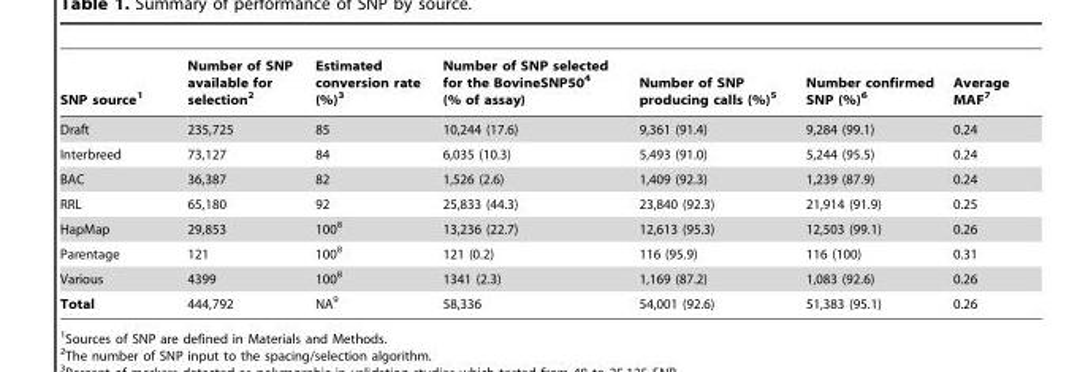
<table><thead><tr><td>SNP source<sup>1</sup></td><td>Number of SNP available for selection<sup>2</sup></td><td>Estimated conversion rate (%)<sup>3</sup></td><td>Number of SNP selected for the BovineSNP50<sup>4</sup> (% of assay)</td><td>Number of SNP producing calls (%)<sup>5</sup></td><td>Number confirmed SNP (%)<sup>6</sup></td><td>Average MAF<sup>7</sup></td></tr></thead><tbody><tr><td>Draft</td><td>235,725</td><td>85</td><td>10,244 (17.6)</td><td>9,361 (91.4)</td><td>9,284 (99.1)</td><td>0.24</td></tr><tr><td>Interbreed</td><td>73,127</td><td>84</td><td>6,035 (10.3)</td><td>5,493 (91.0)</td><td>5,244 (95.5)</td><td>0.24</td></tr><tr><td>BAC</td><td>36,387</td><td>82</td><td>1,526 (2.6)</td><td>1,409 (92.3)</td><td>1,239 (87.9)</td><td>0.24</td></tr><tr><td>RRL</td><td>65,180</td><td>92</td><td>25,833 (44.3)</td><td>23,840 (92.3)</td><td>21,914 (91.9)</td><td>0.25</td></tr><tr><td>HapMap</td><td>29,853</td><td>100<sup>8</sup></td><td>13,236 (22.7)</td><td>12,613 (95.3)</td><td>12,503 (99.1)</td><td>0.26</td></tr><tr><td>Parentage</td><td>121</td><td>100<sup>8</sup></td><td>121 (0.2)</td><td>116 (95.9)</td><td>116 (100)</td><td>0.31</td></tr><tr><td>Various</td><td>4399</td><td>100<sup>8</sup></td><td>1341 (2.3)</td><td>1,169 (87.2)</td><td>1,083 (92.6)</td><td>0.26</td></tr><tr><td>Total</td><td>444,792</td><td>NA<sup>9</sup></td><td>58,336</td><td>54,001 (92.6)</td><td>51,383 (95.1)</td><td>0.26</td></tr></tbody></table>